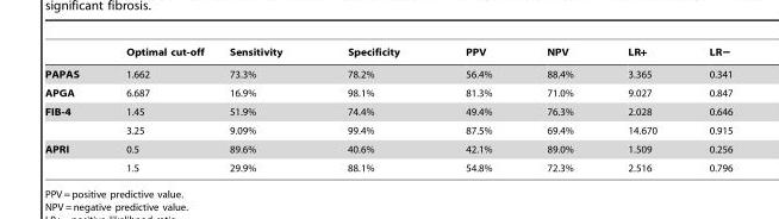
<table><thead><tr><td></td><td>Optimal cut-off</td><td>Sensitivity</td><td>Specificity</td><td>PPV</td><td>NPV</td><td>LR+</td><td>LR−</td></tr></thead><tbody><tr><td>PAPAS</td><td>1.662</td><td>73.3%</td><td>78.2%</td><td>56.4%</td><td>88.4%</td><td>3.365</td><td>0.341</td></tr><tr><td>APGA</td><td>6.687</td><td>16.9%</td><td>98.1%</td><td>81.3%</td><td>71.0%</td><td>9.027</td><td>0.847</td></tr><tr><td rowspan="2">FIB-4</td><td>1.45</td><td>51.9%</td><td>74.4%</td><td>49.4%</td><td>76.3%</td><td>2.028</td><td>0.646</td></tr><tr><td>3.25</td><td>9.09%</td><td>99.4%</td><td>87.5%</td><td>69.4%</td><td>14.670</td><td>0.915</td></tr><tr><td rowspan="2">APRI</td><td>0.5</td><td>89.6%</td><td>40.6%</td><td>42.1%</td><td>89.0%</td><td>1.509</td><td>0.256</td></tr><tr><td>1.5</td><td>29.9%</td><td>88.1%</td><td>54.8%</td><td>72.3%</td><td>2.516</td><td>0.796</td></tr></tbody></table>